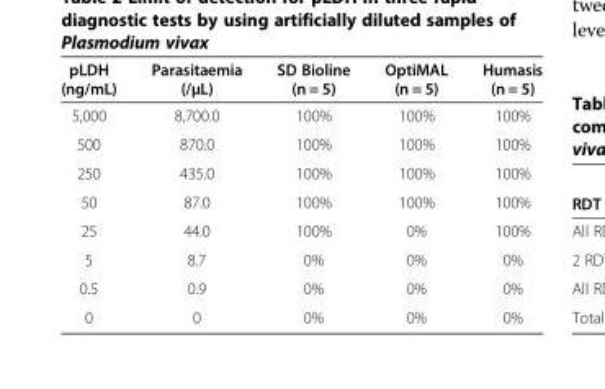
<table><thead><tr><td>pLDH (ng/mL)</td><td>Parasitaemia (/μL)</td><td>SD Bioline (n = 5)</td><td>OptiMAL (n = 5)</td><td>Humasis (n = 5)</td></tr></thead><tbody><tr><td>5,000</td><td>8,700.0</td><td>100%</td><td>100%</td><td>100%</td></tr><tr><td>500</td><td>870.0</td><td>100%</td><td>100%</td><td>100%</td></tr><tr><td>250</td><td>435.0</td><td>100%</td><td>100%</td><td>100%</td></tr><tr><td>50</td><td>87.0</td><td>100%</td><td>100%</td><td>100%</td></tr><tr><td>25</td><td>44.0</td><td>100%</td><td>0%</td><td>100%</td></tr><tr><td>5</td><td>8.7</td><td>0%</td><td>0%</td><td>0%</td></tr><tr><td>0.5</td><td>0.9</td><td>0%</td><td>0%</td><td>0%</td></tr><tr><td>0</td><td>0</td><td>0%</td><td>0%</td><td>0%</td></tr></tbody></table>